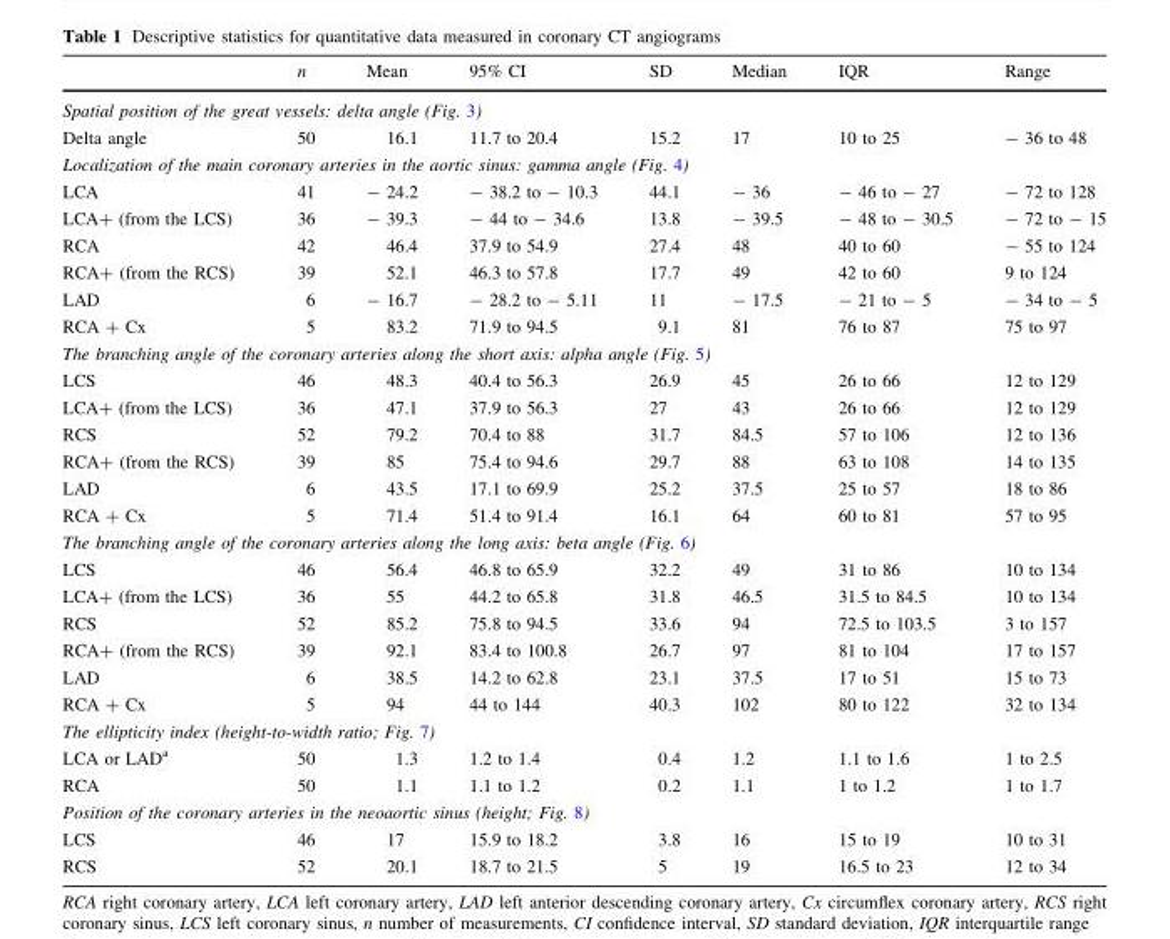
<table><thead><tr><td></td><td>n</td><td>Mean</td><td>95% CI</td><td>SD</td><td>Median</td><td>IQR</td><td>Range</td></tr></thead><tbody><tr><td colspan="8">Spatial position of the great vessels: delta angle (Fig. 3)</td></tr><tr><td>Delta angle</td><td>50</td><td>16.1</td><td>11.7 to 20.4</td><td>15.2</td><td>17</td><td>10 to 25</td><td>- 36 to 48</td></tr><tr><td colspan="8">Localization of the main coronary arteries in the aortic sinus: gamma angle (Fig. 4)</td></tr><tr><td>LCA</td><td>41</td><td>- 24.2</td><td>- 38.2 to - 10.3</td><td>44.1</td><td>- 36</td><td>- 46 to - 27</td><td>- 72 to 128</td></tr><tr><td>LCA+ (from the LCS)</td><td>36</td><td>- 39.3</td><td>- 44 to - 34.6</td><td>13.8</td><td>- 39.5</td><td>- 48 to - 30.5</td><td>- 72 to - 15</td></tr><tr><td>RCA</td><td>42</td><td>46.4</td><td>37.9 to 54.9</td><td>27.4</td><td>48</td><td>40 to 60</td><td>- 55 to 124</td></tr><tr><td>RCA+ (from the RCS)</td><td>39</td><td>52.1</td><td>46.3 to 57.8</td><td>17.7</td><td>49</td><td>42 to 60</td><td>9 to 124</td></tr><tr><td>LAD</td><td>6</td><td>- 16.7</td><td>- 28.2 to - 5.11</td><td>11</td><td>- 17.5</td><td>- 21 to - 5</td><td>- 34 to - 5</td></tr><tr><td>RCA + Cx</td><td>5</td><td>83.2</td><td>71.9 to 94.5</td><td>9.1</td><td>81</td><td>76 to 87</td><td>75 to 97</td></tr><tr><td colspan="8">The branching angle of the coronary arteries along the short axis: alpha angle (Fig. 5)</td></tr><tr><td>LCS</td><td>46</td><td>48.3</td><td>40.4 to 56.3</td><td>26.9</td><td>45</td><td>26 to 66</td><td>12 to 129</td></tr><tr><td>LCA+ (from the LCS)</td><td>36</td><td>47.1</td><td>37.9 to 56.3</td><td>27</td><td>43</td><td>26 to 66</td><td>12 to 129</td></tr><tr><td>RCS</td><td>52</td><td>79.2</td><td>70.4 to 88</td><td>31.7</td><td>84.5</td><td>57 to 106</td><td>12 to 136</td></tr><tr><td>RCA+ (from the RCS)</td><td>39</td><td>85</td><td>75.4 to 94.6</td><td>29.7</td><td>88</td><td>63 to 108</td><td>14 to 135</td></tr><tr><td>LAD</td><td>6</td><td>43.5</td><td>17.1 to 69.9</td><td>25.2</td><td>37.5</td><td>25 to 57</td><td>18 to 86</td></tr><tr><td>RCA + Cx</td><td>5</td><td>71.4</td><td>51.4 to 91.4</td><td>16.1</td><td>64</td><td>60 to 81</td><td>57 to 95</td></tr><tr><td colspan="8">The branching angle of the coronary arteries along the long axis: beta angle (Fig. 6)</td></tr><tr><td>LCS</td><td>46</td><td>56.4</td><td>46.8 to 65.9</td><td>32.2</td><td>49</td><td>31 to 86</td><td>10 to 134</td></tr><tr><td>LCA+ (from the LCS)</td><td>36</td><td>55</td><td>44.2 to 65.8</td><td>31.8</td><td>46.5</td><td>31.5 to 84.5</td><td>10 to 134</td></tr><tr><td>RCS</td><td>52</td><td>85.2</td><td>75.8 to 94.5</td><td>33.6</td><td>94</td><td>72.5 to 103.5</td><td>3 to 157</td></tr><tr><td>RCA+ (from the RCS)</td><td>39</td><td>92.1</td><td>83.4 to 100.8</td><td>26.7</td><td>97</td><td>81 to 104</td><td>17 to 157</td></tr><tr><td>LAD</td><td>6</td><td>38.5</td><td>14.2 to 62.8</td><td>23.1</td><td>37.5</td><td>17 to 51</td><td>15 to 73</td></tr><tr><td>RCA + Cx</td><td>5</td><td>94</td><td>44 to 144</td><td>40.3</td><td>102</td><td>80 to 122</td><td>32 to 134</td></tr><tr><td colspan="8">The ellipticity index (height-to-width ratio; Fig. 7)</td></tr><tr><td>LCA or LAD<sup>a</sup></td><td>50</td><td>1.3</td><td>1.2 to 1.4</td><td>0.4</td><td>1.2</td><td>1.1 to 1.6</td><td>1 to 2.5</td></tr><tr><td>RCA</td><td>50</td><td>1.1</td><td>1.1 to 1.2</td><td>0.2</td><td>1.1</td><td>1 to 1.2</td><td>1 to 1.7</td></tr><tr><td colspan="8">Position of the coronary arteries in the neoaortic sinus (height; Fig. 8)</td></tr><tr><td>LCS</td><td>46</td><td>17</td><td>15.9 to 18.2</td><td>3.8</td><td>16</td><td>15 to 19</td><td>10 to 31</td></tr><tr><td>RCS</td><td>52</td><td>20.1</td><td>18.7 to 21.5</td><td>5</td><td>19</td><td>16.5 to 23</td><td>12 to 34</td></tr></tbody></table>